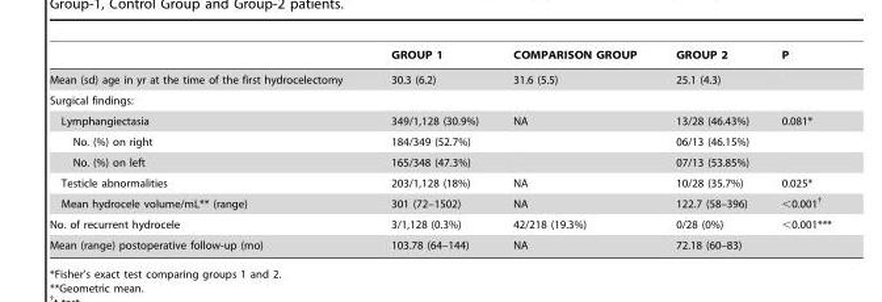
<table><thead><tr><td></td><td>GROUP 1</td><td>COMPARISON GROUP</td><td>GROUP 2</td><td>P</td></tr></thead><tbody><tr><td>Mean (sd) age in yr at the time of the first hydrocelectomy</td><td>30.3 (6.2)</td><td>31.6 (5.5)</td><td>25.1 (4.3)</td><td></td></tr><tr><td colspan="5">Surgical findings:</td></tr><tr><td>Lymphangiectasia</td><td>349/1,128 (30.9%)</td><td>NA</td><td>13/28 (46.43%)</td><td>0.081*</td></tr><tr><td>No. (%) on right</td><td>184/349 (52.7%)</td><td></td><td>06/13 (46.15%)</td><td></td></tr><tr><td>No. (%) on left</td><td>165/348 (47.3%)</td><td></td><td>07/13 (53.85%)</td><td></td></tr><tr><td>Testicle abnormalities</td><td>203/1,128 (18%)</td><td>NA</td><td>10/28 (35.7%)</td><td>0.025*</td></tr><tr><td>Mean hydrocele volume/mL** (range)</td><td>301 (72–1502)</td><td>NA</td><td>122.7 (58–396)</td><td>&lt;0.001†</td></tr><tr><td>No. of recurrent hydrocele</td><td>3/1,128 (0.3%)</td><td>42/218 (19.3%)</td><td>0/28 (0%)</td><td>&lt;0.001***</td></tr><tr><td>Mean (range) postoperative follow-up (mo)</td><td>103.78 (64–144)</td><td>NA</td><td>72.18 (60–83)</td><td></td></tr></tbody></table>